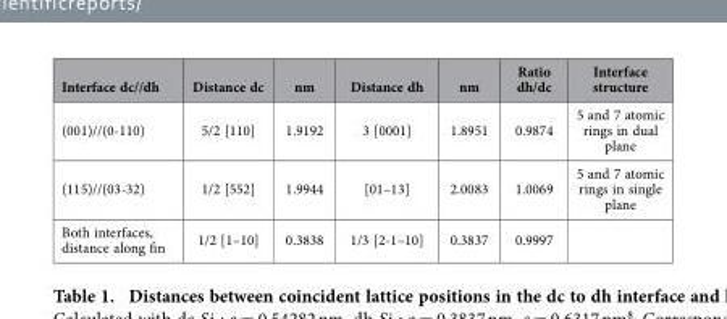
<table><thead><tr><td>Interface dc//dh</td><td>Distance dc</td><td>nm</td><td>Distance dh</td><td>nm</td><td>Ratio dh/dc</td><td>Interface structure</td></tr></thead><tbody><tr><td>(001)//(0-110)</td><td>5/2 [110]</td><td>1.9192</td><td>3 [0001]</td><td>1.8951</td><td>0.9874</td><td>5 and 7 atomic rings in dual plane</td></tr><tr><td>(115)//(03-32)</td><td>1/2 [552]</td><td>1.9944</td><td>[01–13]</td><td>2.0083</td><td>1.0069</td><td>5 and 7 atomic rings in single plane</td></tr><tr><td>Both interfaces, distance along fin</td><td>1/2 [1–10]</td><td>0.3838</td><td>1/3 [2-1–10]</td><td>0.3837</td><td>0.9997</td><td></td></tr></tbody></table>